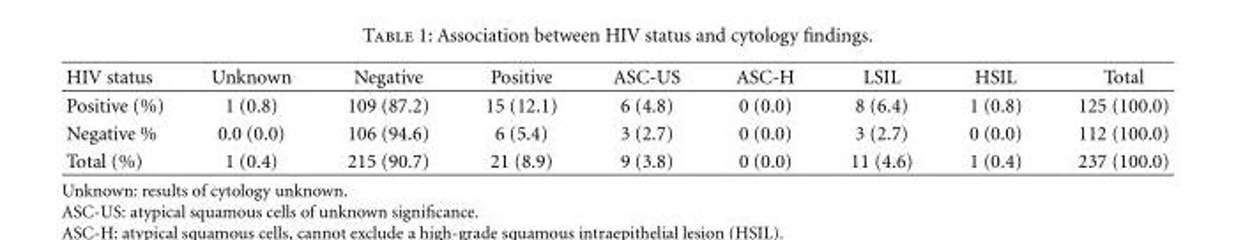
<table><thead><tr><td>HIV status</td><td>Unknown</td><td>Negative</td><td>Positive</td><td>ASC-US</td><td>ASC-H</td><td>LSIL</td><td>HSIL</td><td>Total</td></tr></thead><tbody><tr><td>Positive (%)</td><td>1 (0.8)</td><td>109 (87.2)</td><td>15 (12.1)</td><td>6 (4.8)</td><td>0 (0.0)</td><td>8 (6.4)</td><td>1 (0.8)</td><td>125 (100.0)</td></tr><tr><td>Negative %</td><td>0.0 (0.0)</td><td>106 (94.6)</td><td>6 (5.4)</td><td>3 (2.7)</td><td>0 (0.0)</td><td>3 (2.7)</td><td>0 (0.0)</td><td>112 (100.0)</td></tr><tr><td>Total (%)</td><td>1 (0.4)</td><td>215 (90.7)</td><td>21 (8.9)</td><td>9 (3.8)</td><td>0 (0.0)</td><td>11 (4.6)</td><td>1 (0.4)</td><td>237 (100.0)</td></tr></tbody></table>